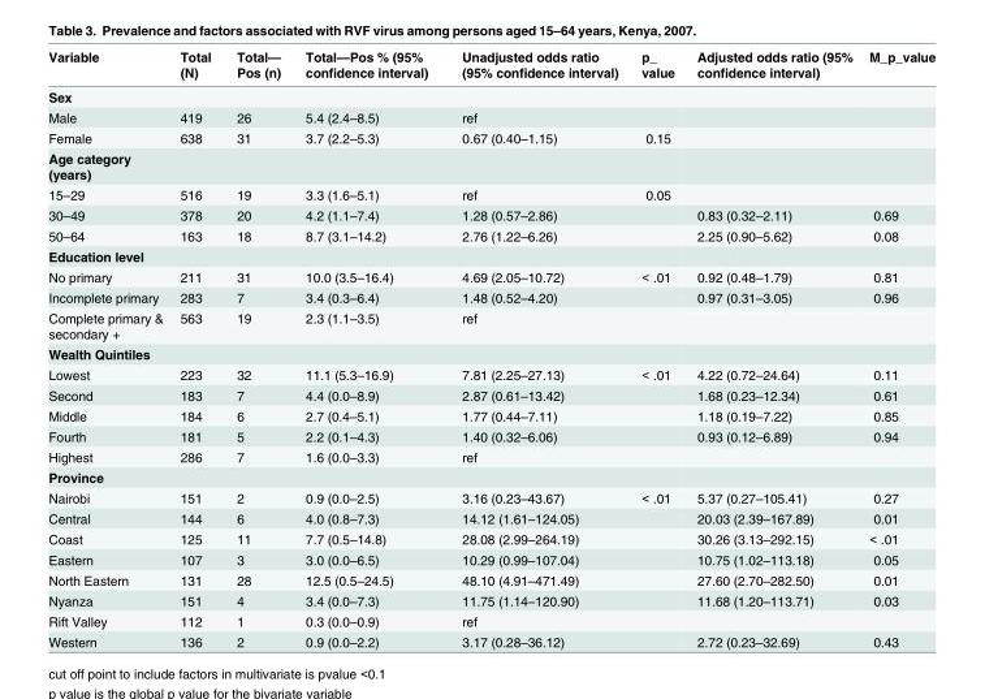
<table><thead><tr><td>Variable</td><td>Total (N)</td><td>Total— Pos (n)</td><td>Total—Pos % (95% confidence interval)</td><td>Unadjusted odds ratio (95% confidence interval)</td><td>p_ value</td><td>Adjusted odds ratio (95% confidence interval)</td><td>M_p_value</td></tr></thead><tbody><tr><td colspan="8">Sex</td></tr><tr><td>Male</td><td>419</td><td>26</td><td>5.4 (2.4–8.5)</td><td>ref</td><td></td><td></td><td></td></tr><tr><td>Female</td><td>638</td><td>31</td><td>3.7 (2.2–5.3)</td><td>0.67 (0.40–1.15)</td><td>0.15</td><td></td><td></td></tr><tr><td colspan="8">Age category (years)</td></tr><tr><td>15–29</td><td>516</td><td>19</td><td>3.3 (1.6–5.1)</td><td>ref</td><td>0.05</td><td></td><td></td></tr><tr><td>30–49</td><td>378</td><td>20</td><td>4.2 (1.1–7.4)</td><td>1.28 (0.57–2.86)</td><td></td><td>0.83 (0.32–2.11)</td><td>0.69</td></tr><tr><td>50–64</td><td>163</td><td>18</td><td>8.7 (3.1–14.2)</td><td>2.76 (1.22–6.26)</td><td></td><td>2.25 (0.90–5.62)</td><td>0.08</td></tr><tr><td colspan="8">Education level</td></tr><tr><td>No primary</td><td>211</td><td>31</td><td>10.0 (3.5–16.4)</td><td>4.69 (2.05–10.72)</td><td>&lt; .01</td><td>0.92 (0.48–1.79)</td><td>0.81</td></tr><tr><td>Incomplete primary</td><td>283</td><td>7</td><td>3.4 (0.3–6.4)</td><td>1.48 (0.52–4.20)</td><td></td><td>0.97 (0.31–3.05)</td><td>0.96</td></tr><tr><td>Complete primary &amp; secondary +</td><td>563</td><td>19</td><td>2.3 (1.1–3.5)</td><td>ref</td><td></td><td></td><td></td></tr><tr><td colspan="8">Wealth Quintiles</td></tr><tr><td>Lowest</td><td>223</td><td>32</td><td>11.1 (5.3–16.9)</td><td>7.81 (2.25–27.13)</td><td>&lt; .01</td><td>4.22 (0.72–24.64)</td><td>0.11</td></tr><tr><td>Second</td><td>183</td><td>7</td><td>4.4 (0.0–8.9)</td><td>2.87 (0.61–13.42)</td><td></td><td>1.68 (0.23–12.34)</td><td>0.61</td></tr><tr><td>Middle</td><td>184</td><td>6</td><td>2.7 (0.4–5.1)</td><td>1.77 (0.44–7.11)</td><td></td><td>1.18 (0.19–7.22)</td><td>0.85</td></tr><tr><td>Fourth</td><td>181</td><td>5</td><td>2.2 (0.1–4.3)</td><td>1.40 (0.32–6.06)</td><td></td><td>0.93 (0.12–6.89)</td><td>0.94</td></tr><tr><td>Highest</td><td>286</td><td>7</td><td>1.6 (0.0–3.3)</td><td>ref</td><td></td><td></td><td></td></tr><tr><td colspan="8">Province</td></tr><tr><td>Nairobi</td><td>151</td><td>2</td><td>0.9 (0.0–2.5)</td><td>3.16 (0.23–43.67)</td><td>&lt; .01</td><td>5.37 (0.27–105.41)</td><td>0.27</td></tr><tr><td>Central</td><td>144</td><td>6</td><td>4.0 (0.8–7.3)</td><td>14.12 (1.61–124.05)</td><td></td><td>20.03 (2.39–167.89)</td><td>0.01</td></tr><tr><td>Coast</td><td>125</td><td>11</td><td>7.7 (0.5–14.8)</td><td>28.08 (2.99–264.19)</td><td></td><td>30.26 (3.13–292.15)</td><td>&lt; .01</td></tr><tr><td>Eastern</td><td>107</td><td>3</td><td>3.0 (0.0–6.5)</td><td>10.29 (0.99–107.04)</td><td></td><td>10.75 (1.02–113.18)</td><td>0.05</td></tr><tr><td>North Eastern</td><td>131</td><td>28</td><td>12.5 (0.5–24.5)</td><td>48.10 (4.91–471.49)</td><td></td><td>27.60 (2.70–282.50)</td><td>0.01</td></tr><tr><td>Nyanza</td><td>151</td><td>4</td><td>3.4 (0.0–7.3)</td><td>11.75 (1.14–120.90)</td><td></td><td>11.68 (1.20–113.71)</td><td>0.03</td></tr><tr><td>Rift Valley</td><td>112</td><td>1</td><td>0.3 (0.0–0.9)</td><td>ref</td><td></td><td></td><td></td></tr><tr><td>Western</td><td>136</td><td>2</td><td>0.9 (0.0–2.2)</td><td>3.17 (0.28–36.12)</td><td></td><td>2.72 (0.23–32.69)</td><td>0.43</td></tr></tbody></table>